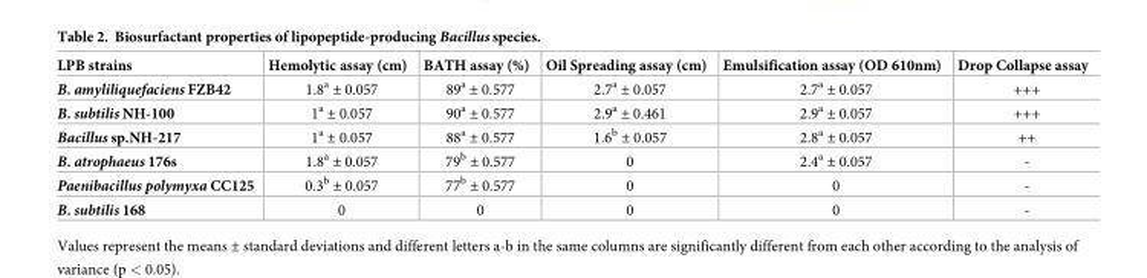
<table><thead><tr><td>LPB strains</td><td>Hemolytic assay (cm)</td><td>BATH assay (%)</td><td>Oil Spreading assay (cm)</td><td>Emulsification assay (OD 610nm)</td><td>Drop Collapse assay</td></tr></thead><tbody><tr><td>B. amyliliquefaciens FZB42</td><td>1.8<sup>a</sup> ± 0.057</td><td>89<sup>a</sup> ± 0.577</td><td>2.7<sup>a</sup> ± 0.057</td><td>2.7<sup>a</sup> ± 0.057</td><td>+++</td></tr><tr><td>B. subtilis NH-100</td><td>1<sup>a</sup> ± 0.057</td><td>90<sup>a</sup> ± 0.577</td><td>2.9<sup>a</sup> ± 0.461</td><td>2.9<sup>a</sup> ± 0.057</td><td>+++</td></tr><tr><td>Bacillus sp.NH-217</td><td>1<sup>a</sup> ± 0.057</td><td>88<sup>a</sup> ± 0.577</td><td>1.6<sup>b</sup> ± 0.057</td><td>2.8<sup>a</sup> ± 0.057</td><td>++</td></tr><tr><td>B. atrophaeus 176s</td><td>1.8<sup>a</sup> ± 0.057</td><td>79<sup>b</sup> ± 0.577</td><td>0</td><td>2.4<sup>a</sup> ± 0.057</td><td>-</td></tr><tr><td>Paenibacillus polymyxa CC125</td><td>0.3<sup>b</sup> ± 0.057</td><td>77<sup>b</sup> ± 0.577</td><td>0</td><td>0</td><td>-</td></tr><tr><td>B. subtilis 168</td><td>0</td><td>0</td><td>0</td><td>0</td><td>-</td></tr></tbody></table>